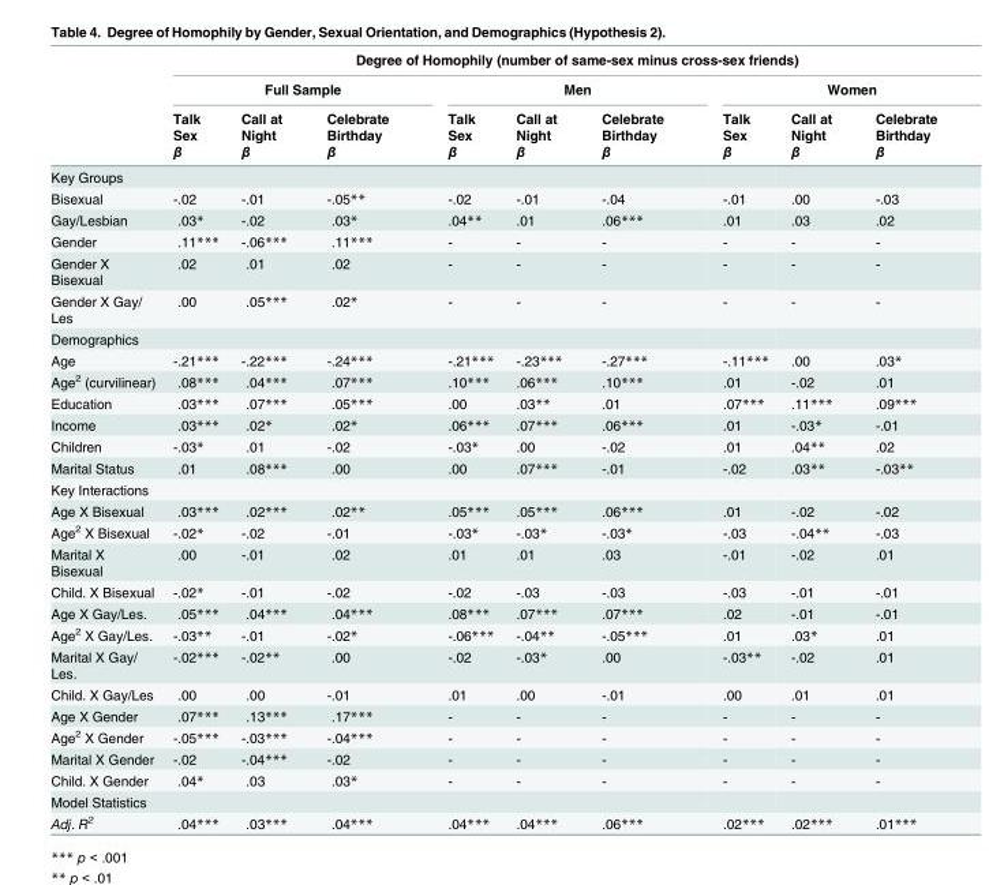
<table><thead><tr><td rowspan="4"></td><td colspan="9">Degree of Homophily (number of same-sex minus cross-sex friends)</td></tr><tr><td colspan="3">Full Sample</td><td colspan="3">Men</td><td colspan="3">Women</td></tr><tr><td rowspan="2">Talk Sex β</td><td rowspan="2">Call at Night β</td><td rowspan="2">Celebrate Birthday β</td><td rowspan="2">Talk Sex β</td><td rowspan="2">Call at Night β</td><td rowspan="2">Celebrate Birthday β</td><td rowspan="2">Talk Sex β</td><td rowspan="2">Call at Night β</td><td rowspan="2">Celebrate Birthday β</td></tr><tr></tr></thead><tbody><tr><td colspan="10">Key Groups</td></tr><tr><td>Bisexual</td><td>-.02</td><td>-.01</td><td>-.05**</td><td>-.02</td><td>-.01</td><td>-.04</td><td>-.01</td><td>.00</td><td>-.03</td></tr><tr><td>Gay/Lesbian</td><td>.03*</td><td>-.02</td><td>.03*</td><td>.04**</td><td>.01</td><td>.06***</td><td>.01</td><td>.03</td><td>.02</td></tr><tr><td>Gender</td><td>.11***</td><td>-.06***</td><td>.11***</td><td>-</td><td>-</td><td>-</td><td>-</td><td>-</td><td>-</td></tr><tr><td>Gender X Bisexual</td><td>.02</td><td>.01</td><td>.02</td><td>-</td><td>-</td><td>-</td><td>-</td><td>-</td><td>-</td></tr><tr><td>Gender X Gay/ Les</td><td>.00</td><td>.05***</td><td>.02*</td><td>-</td><td>-</td><td>-</td><td>-</td><td>-</td><td>-</td></tr><tr><td colspan="10">Demographics</td></tr><tr><td>Age</td><td>-.21***</td><td>-.22***</td><td>-.24***</td><td>-.21***</td><td>-.23***</td><td>-.27***</td><td>-.11***</td><td>.00</td><td>.03*</td></tr><tr><td>Age<sup>2</sup> (curvilinear)</td><td>.08***</td><td>.04***</td><td>.07***</td><td>.10***</td><td>.06***</td><td>.10***</td><td>.01</td><td>-.02</td><td>.01</td></tr><tr><td>Education</td><td>.03***</td><td>.07***</td><td>.05***</td><td>.00</td><td>.03**</td><td>.01</td><td>.07***</td><td>.11***</td><td>.09***</td></tr><tr><td>Income</td><td>.03***</td><td>.02*</td><td>.02*</td><td>.06***</td><td>.07***</td><td>.06***</td><td>.01</td><td>-.03*</td><td>-.01</td></tr><tr><td>Children</td><td>-.03*</td><td>.01</td><td>-.02</td><td>-.03*</td><td>.00</td><td>-.02</td><td>.01</td><td>.04**</td><td>.02</td></tr><tr><td>Marital Status</td><td>.01</td><td>.08***</td><td>.00</td><td>.00</td><td>.07***</td><td>-.01</td><td>-.02</td><td>.03**</td><td>-.03**</td></tr><tr><td colspan="10">Key Interactions</td></tr><tr><td>Age X Bisexual</td><td>.03***</td><td>.02***</td><td>.02**</td><td>.05***</td><td>.05***</td><td>.06***</td><td>.01</td><td>-.02</td><td>-.02</td></tr><tr><td>Age<sup>2</sup> X Bisexual</td><td>-.02*</td><td>-.02</td><td>-.01</td><td>-.03*</td><td>-.03*</td><td>-.03*</td><td>-.03</td><td>-.04**</td><td>-.03</td></tr><tr><td>Marital X Bisexual</td><td>.00</td><td>-.01</td><td>.02</td><td>.01</td><td>.01</td><td>.03</td><td>-.01</td><td>-.02</td><td>.01</td></tr><tr><td>Child. X Bisexual</td><td>-.02*</td><td>-.01</td><td>-.02</td><td>-.02</td><td>-.03</td><td>-.03</td><td>-.03</td><td>-.01</td><td>-.01</td></tr><tr><td>Age X Gay/Les.</td><td>.05***</td><td>.04***</td><td>.04***</td><td>.08***</td><td>.07***</td><td>.07***</td><td>.02</td><td>-.01</td><td>-.01</td></tr><tr><td>Age<sup>2</sup> X Gay/Les.</td><td>-.03**</td><td>-.01</td><td>-.02*</td><td>-.06***</td><td>-.04**</td><td>-.05***</td><td>.01</td><td>.03*</td><td>.01</td></tr><tr><td>Marital X Gay/ Les.</td><td>-.02***</td><td>-.02**</td><td>.00</td><td>-.02</td><td>-.03*</td><td>.00</td><td>-.03**</td><td>-.02</td><td>.01</td></tr><tr><td>Child. X Gay/Les</td><td>.00</td><td>.00</td><td>-.01</td><td>.01</td><td>.00</td><td>-.01</td><td>.00</td><td>.01</td><td>.01</td></tr><tr><td>Age X Gender</td><td>.07***</td><td>.13***</td><td>.17***</td><td>-</td><td>-</td><td>-</td><td>-</td><td>-</td><td>-</td></tr><tr><td>Age<sup>2</sup> X Gender</td><td>-.05***</td><td>-.03***</td><td>-.04***</td><td>-</td><td>-</td><td>-</td><td>-</td><td>-</td><td>-</td></tr><tr><td>Marital X Gender</td><td>-.02</td><td>-.04***</td><td>-.02</td><td>-</td><td>-</td><td>-</td><td>-</td><td>-</td><td>-</td></tr><tr><td>Child. X Gender</td><td>.04*</td><td>.03</td><td>.03*</td><td>-</td><td>-</td><td>-</td><td>-</td><td>-</td><td>-</td></tr><tr><td colspan="10">Model Statistics</td></tr><tr><td>Adj. R<sup>2</sup></td><td>.04***</td><td>.03***</td><td>.04***</td><td>.04***</td><td>.04***</td><td>.06***</td><td>.02***</td><td>.02***</td><td>.01***</td></tr></tbody></table>